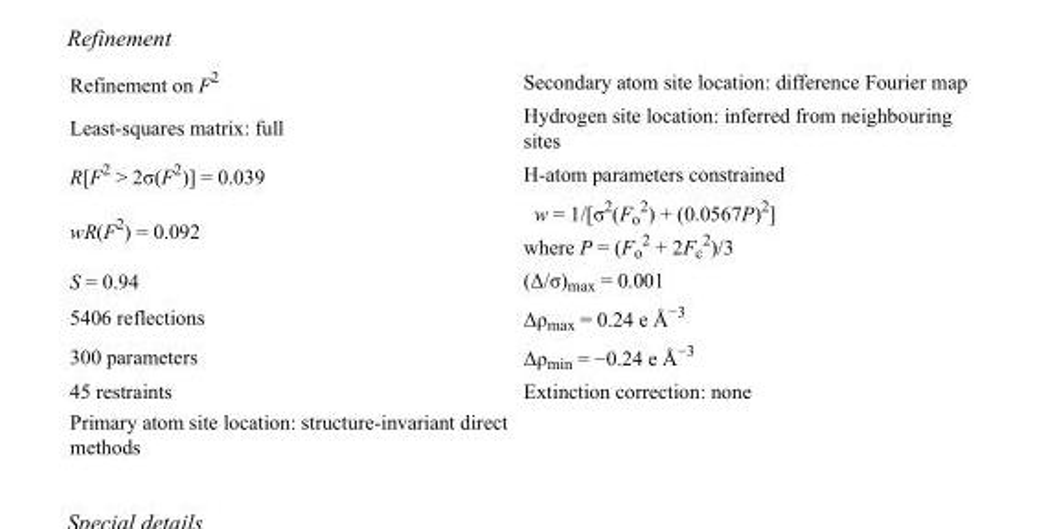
<table><tbody><tr><td>Refinement on F<sup>2</sup></td><td>Secondary atom site location: difference Fourier map</td></tr><tr><td>Least-squares matrix: full</td><td>Hydrogen site location: inferred from neighbouring sites</td></tr><tr><td>R[F<sup>2</sup> &gt; 2σ(F<sup>2</sup>)] = 0.039</td><td>H-atom parameters constrained</td></tr><tr><td>wR(F<sup>2</sup>) = 0.092</td><td>w = 1/[σ<sup>2</sup>(F<sub>o</sub> <sup>2</sup>) + (0.0567P)<sup>2</sup>] where P = (F<sub>o</sub> <sup>2</sup> + 2F<sub>c</sub> <sup>2</sup>)/3</td></tr><tr><td>S = 0.94</td><td>(Δ/σ)<sub>max</sub> = 0.001</td></tr><tr><td>5406 reflections</td><td>Δρ<sub>max</sub> = 0.24 e Å<sup>−3</sup></td></tr><tr><td>300 parameters</td><td>Δρ<sub>min</sub> = −0.24 e Å<sup>−3</sup></td></tr><tr><td>45 restraints</td><td>Extinction correction: none</td></tr><tr><td>Primary atom site location: structure-invariant direct methods</td><td></td></tr></tbody></table>